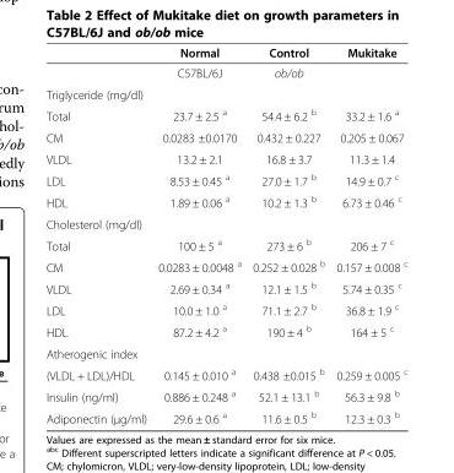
<table><thead><tr><td></td><td>Normal</td><td>Control</td><td>Mukitake</td></tr></thead><tbody><tr><td></td><td>C57BL/6J</td><td>ob/ob</td><td></td></tr><tr><td colspan="4">Triglyceride (mg/dl)</td></tr><tr><td>Total</td><td>23.7 ± 2.5 <sup>a</sup></td><td>54.4 ± 6.2 <sup>b</sup></td><td>33.2 ± 1.6 <sup>a</sup></td></tr><tr><td>CM</td><td>0.0283 ±0.0170</td><td>0.432 ± 0.227</td><td>0.205 ± 0.067</td></tr><tr><td>VLDL</td><td>13.2 ± 2.1</td><td>16.8 ± 3.7</td><td>11.3 ± 1.4</td></tr><tr><td>LDL</td><td>8.53 ± 0.45 <sup>a</sup></td><td>27.0 ± 1.7 <sup>b</sup></td><td>14.9 ± 0.7 <sup>c</sup></td></tr><tr><td>HDL</td><td>1.89 ± 0.06 <sup>a</sup></td><td>10.2 ± 1.3 <sup>b</sup></td><td>6.73 ± 0.46 <sup>c</sup></td></tr><tr><td colspan="4">Cholesterol (mg/dl)</td></tr><tr><td>Total</td><td>100 ± 5 <sup>a</sup></td><td>273 ± 6 <sup>b</sup></td><td>206 ± 7 <sup>c</sup></td></tr><tr><td>CM</td><td>0.0283 ± 0.0048 <sup>a</sup></td><td>0.252 ± 0.028 <sup>b</sup></td><td>0.157 ± 0.008 <sup>c</sup></td></tr><tr><td>VLDL</td><td>2.69 ± 0.34 <sup>a</sup></td><td>12.1 ± 1.5 <sup>b</sup></td><td>5.74 ± 0.35 <sup>c</sup></td></tr><tr><td>LDL</td><td>10.0 ± 1.0 <sup>a</sup></td><td>71.1 ± 2.7 <sup>b</sup></td><td>36.8 ± 1.9 <sup>c</sup></td></tr><tr><td>HDL</td><td>87.2 ± 4.2 <sup>a</sup></td><td>190 ± 4 <sup>b</sup></td><td>164 ± 5 <sup>c</sup></td></tr><tr><td colspan="4">Atherogenic index</td></tr><tr><td>(VLDL + LDL)/HDL</td><td>0.145 ± 0.010 <sup>a</sup></td><td>0.438 ±0.015 <sup>b</sup></td><td>0.259 ± 0.005 <sup>c</sup></td></tr><tr><td>Insulin (ng/ml)</td><td>0.886 ± 0.248 <sup>a</sup></td><td>52.1 ± 13.1 <sup>b</sup></td><td>56.3 ± 9.8 <sup>b</sup></td></tr><tr><td>Adiponectin (μg/ml)</td><td>29.6 ± 0.6 <sup>a</sup></td><td>11.6 ± 0.5 <sup>b</sup></td><td>12.3 ± 0.3 <sup>b</sup></td></tr></tbody></table>